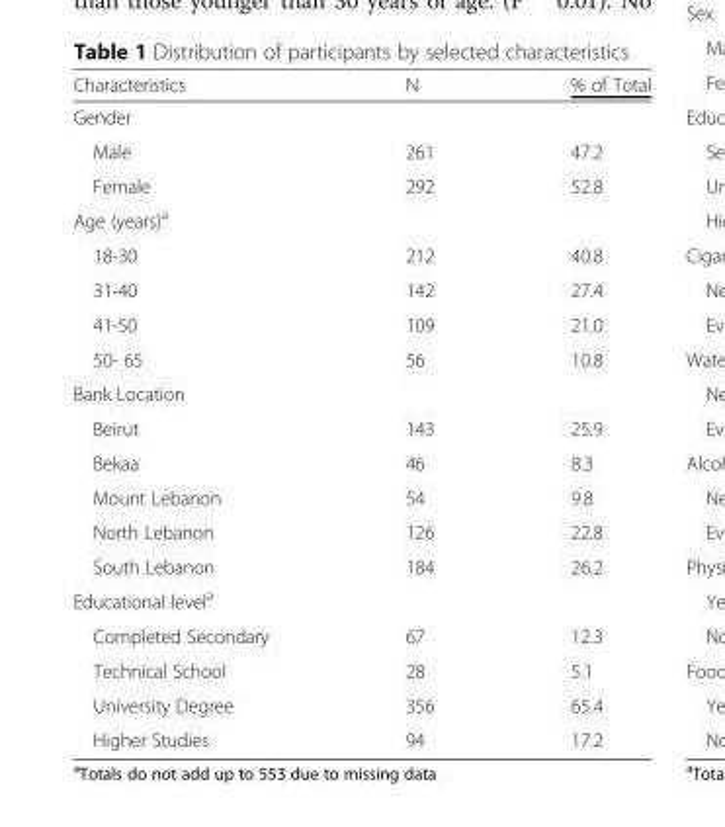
<table><thead><tr><td>Characteristics</td><td>N</td><td>% of Total</td></tr></thead><tbody><tr><td colspan="3">Gender</td></tr><tr><td>Male</td><td>261</td><td>47.2</td></tr><tr><td>Female</td><td>292</td><td>52.8</td></tr><tr><td colspan="3">Age (years)<sup>a</sup></td></tr><tr><td>18-30</td><td>212</td><td>40.8</td></tr><tr><td>31-40</td><td>142</td><td>27.4</td></tr><tr><td>41-50</td><td>109</td><td>21.0</td></tr><tr><td>50- 65</td><td>56</td><td>10.8</td></tr><tr><td colspan="3">Bank Location</td></tr><tr><td>Beirut</td><td>143</td><td>25.9</td></tr><tr><td>Bekaa</td><td>46</td><td>8.3</td></tr><tr><td>Mount Lebanon</td><td>54</td><td>9.8</td></tr><tr><td>North Lebanon</td><td>126</td><td>22.8</td></tr><tr><td>South Lebanon</td><td>184</td><td>26.2</td></tr><tr><td colspan="3">Educational level<sup>a</sup></td></tr><tr><td>Completed Secondary</td><td>67</td><td>12.3</td></tr><tr><td>Technical School</td><td>28</td><td>5.1</td></tr><tr><td>University Degree</td><td>356</td><td>65.4</td></tr><tr><td>Higher Studies</td><td>94</td><td>17.2</td></tr></tbody></table>